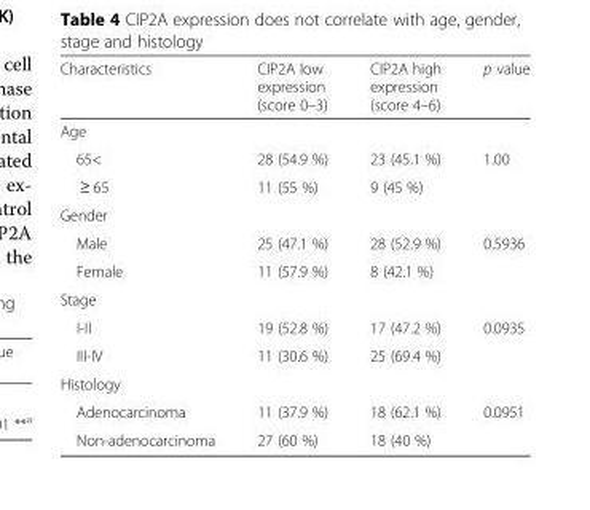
<table><thead><tr><td>Characteristics</td><td>CIP2A low expression (score 0–3)</td><td>CIP2A high expression (score 4–6)</td><td>p value</td></tr></thead><tbody><tr><td colspan="4">Age</td></tr><tr><td>65&lt;</td><td>28 (54.9 %)</td><td>23 (45.1 %)</td><td>1.00</td></tr><tr><td>≥ 65</td><td>11 (55 %)</td><td>9 (45 %)</td><td></td></tr><tr><td colspan="4">Gender</td></tr><tr><td>Male</td><td>25 (47.1 %)</td><td>28 (52.9 %)</td><td>0.5936</td></tr><tr><td>Female</td><td>11 (57.9 %)</td><td>8 (42.1 %)</td><td></td></tr><tr><td colspan="4">Stage</td></tr><tr><td>I-II</td><td>19 (52.8 %)</td><td>17 (47.2 %)</td><td>0.0935</td></tr><tr><td>III-IV</td><td>11 (30.6 %)</td><td>25 (69.4 %)</td><td></td></tr><tr><td colspan="4">Histology</td></tr><tr><td>Adenocarcinoma</td><td>11 (37.9 %)</td><td>18 (62.1 %)</td><td>0.0951</td></tr><tr><td>Non-adenocarcinoma</td><td>27 (60 %)</td><td>18 (40 %)</td><td></td></tr></tbody></table>